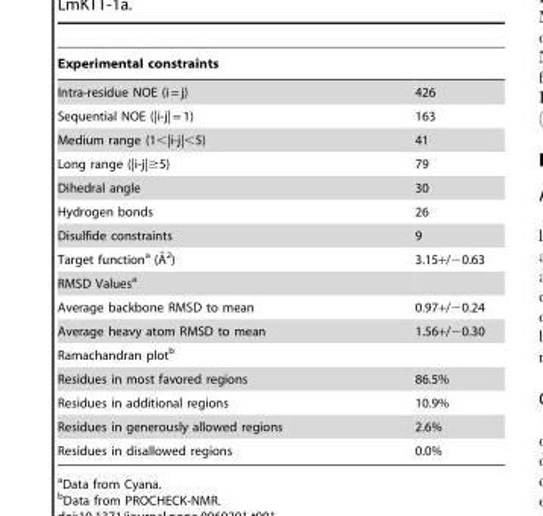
<table><thead><tr><td>Experimental constraints</td><td></td></tr></thead><tbody><tr><td>Intra-residue NOE (i = j)</td><td>426</td></tr><tr><td>Sequential NOE (|i-j| = 1)</td><td>163</td></tr><tr><td>Medium range (1&lt;|i-j|&lt;5)</td><td>41</td></tr><tr><td>Long range (|i-j|≥5)</td><td>79</td></tr><tr><td>Dihedral angle</td><td>30</td></tr><tr><td>Hydrogen bonds</td><td>26</td></tr><tr><td>Disulfide constraints</td><td>9</td></tr><tr><td>Target functiona (A˚2)</td><td>3.15+/−0.63</td></tr><tr><td colspan="2">RMSD Values<sup>a</sup></td></tr><tr><td>Average backbone RMSD to mean</td><td>0.97+/−0.24</td></tr><tr><td>Average heavy atom RMSD to mean</td><td>1.56+/−0.30</td></tr><tr><td colspan="2">Ramachandran plot<sup>b</sup></td></tr><tr><td>Residues in most favored regions</td><td>86.5%</td></tr><tr><td>Residues in additional regions</td><td>10.9%</td></tr><tr><td>Residues in generously allowed regions</td><td>2.6%</td></tr><tr><td>Residues in disallowed regions</td><td>0.0%</td></tr></tbody></table>